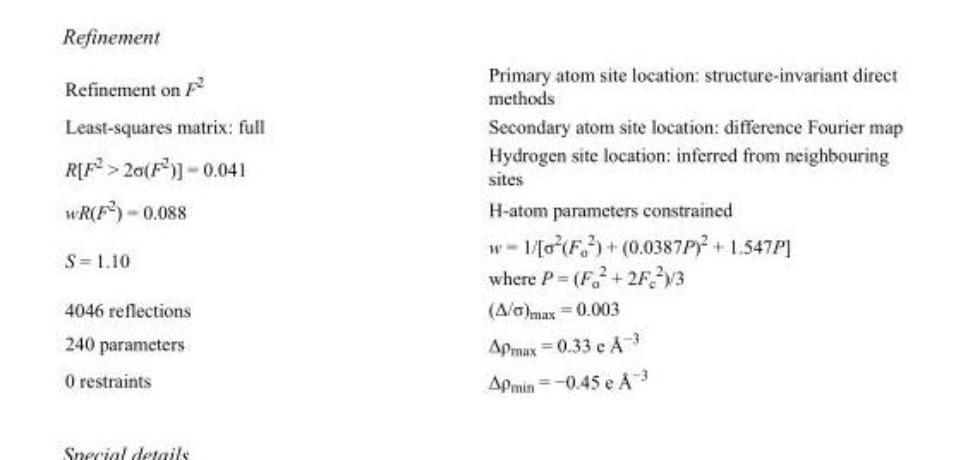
<table><tbody><tr><td>Refinement on F<sup>2</sup></td><td>Primary atom site location: structure-invariant direct methods</td></tr><tr><td>Least-squares matrix: full</td><td>Secondary atom site location: difference Fourier map</td></tr><tr><td>R[F<sup>2</sup> &gt; 2σ(F<sup>2</sup>)] = 0.041</td><td>Hydrogen site location: inferred from neighbouring sites</td></tr><tr><td>wR(F<sup>2</sup>) = 0.088</td><td>H-atom parameters constrained</td></tr><tr><td>S = 1.10</td><td>w = 1/[σ<sup>2</sup>(F<sub>o</sub> <sup>2</sup>) + (0.0387P)<sup>2</sup> + 1.547P] where P = (F<sub>o</sub> <sup>2</sup> + 2F<sub>c</sub> <sup>2</sup>)/3</td></tr><tr><td>4046 reflections</td><td>(Δ/σ)<sub>max</sub> = 0.003</td></tr><tr><td>240 parameters</td><td>Δρ<sub>max</sub> = 0.33 e Å<sup>−3</sup></td></tr><tr><td>0 restraints</td><td>Δρ<sub>min</sub> = −0.45 e Å<sup>−3</sup></td></tr></tbody></table>